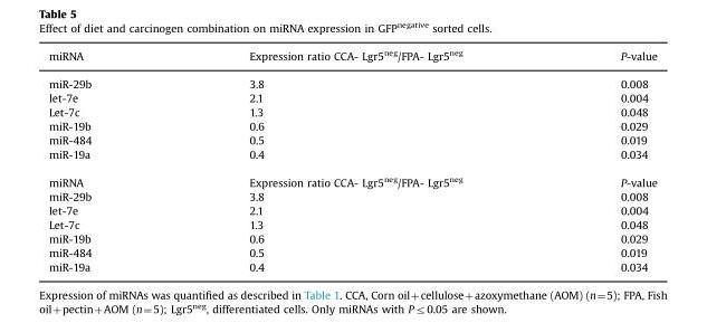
<table><thead><tr><td>miRNA</td><td>Expression ratio CCA- Lgr5<sup>neg</sup>/FPA- Lgr5<sup>neg</sup></td><td>P-value</td></tr></thead><tbody><tr><td>miR-29b</td><td>3.8</td><td>0.008</td></tr><tr><td>let-7e</td><td>2.1</td><td>0.004</td></tr><tr><td>Let-7c</td><td>1.3</td><td>0.048</td></tr><tr><td>miR-19b</td><td>0.6</td><td>0.029</td></tr><tr><td>miR-484</td><td>0.5</td><td>0.019</td></tr><tr><td>miR-19a</td><td>0.4</td><td>0.034</td></tr><tr><td>miRNA</td><td>Expression ratio CCA- Lgr5<sup>neg</sup>/FPA- Lgr5<sup>neg</sup></td><td>P-value</td></tr><tr><td>miR-29b</td><td>3.8</td><td>0.008</td></tr><tr><td>let-7e</td><td>2.1</td><td>0.004</td></tr><tr><td>Let-7c</td><td>1.3</td><td>0.048</td></tr><tr><td>miR-19b</td><td>0.6</td><td>0.029</td></tr><tr><td>miR-484</td><td>0.5</td><td>0.019</td></tr><tr><td>miR-19a</td><td>0.4</td><td>0.034</td></tr></tbody></table>